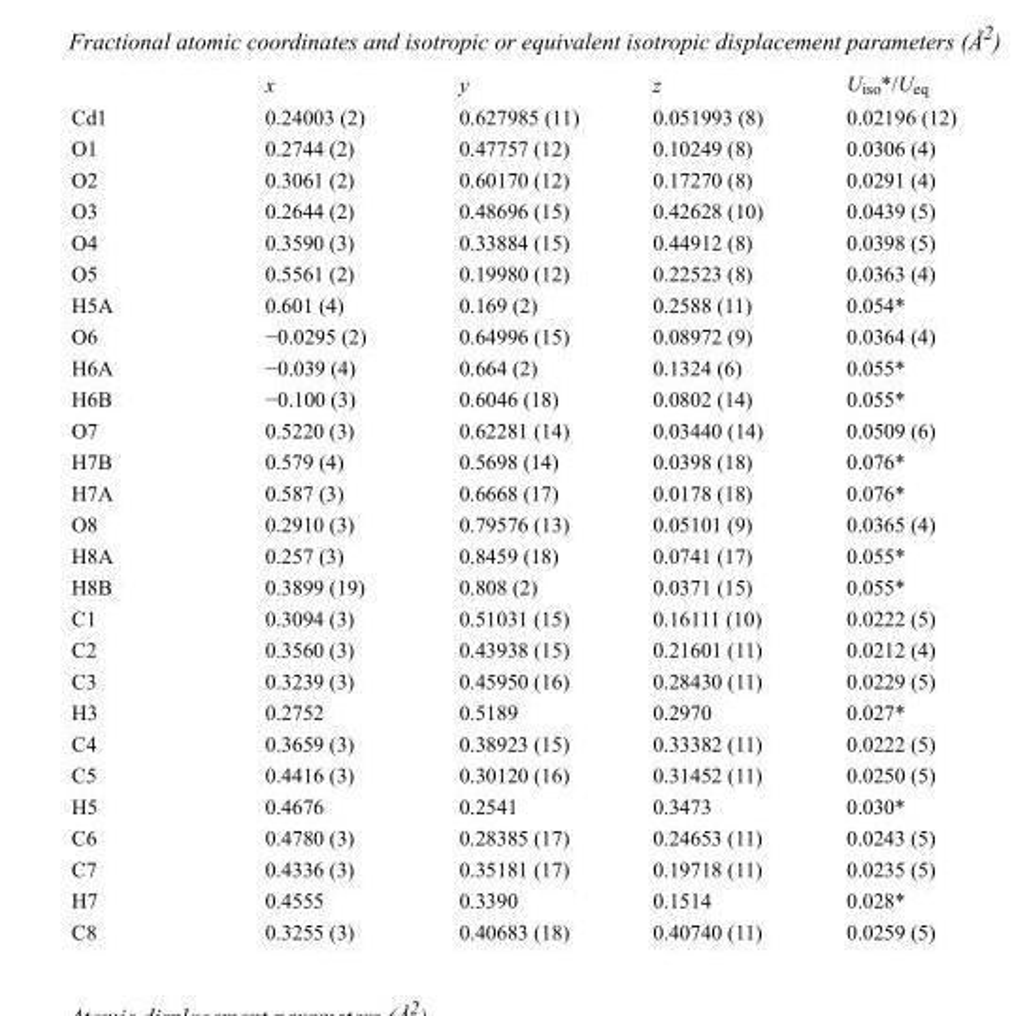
<table><thead><tr><td></td><td>x</td><td>y</td><td>z</td><td>U<sub>iso</sub>*/U<sub>eq</sub></td></tr></thead><tbody><tr><td>Cd1</td><td>0.24003 (2)</td><td>0.627985 (11)</td><td>0.051993 (8)</td><td>0.02196 (12)</td></tr><tr><td>O1</td><td>0.2744 (2)</td><td>0.47757 (12)</td><td>0.10249 (8)</td><td>0.0306 (4)</td></tr><tr><td>O2</td><td>0.3061 (2)</td><td>0.60170 (12)</td><td>0.17270 (8)</td><td>0.0291 (4)</td></tr><tr><td>O3</td><td>0.2644 (2)</td><td>0.48696 (15)</td><td>0.42628 (10)</td><td>0.0439 (5)</td></tr><tr><td>O4</td><td>0.3590 (3)</td><td>0.33884 (15)</td><td>0.44912 (8)</td><td>0.0398 (5)</td></tr><tr><td>O5</td><td>0.5561 (2)</td><td>0.19980 (12)</td><td>0.22523 (8)</td><td>0.0363 (4)</td></tr><tr><td>H5A</td><td>0.601 (4)</td><td>0.169 (2)</td><td>0.2588 (11)</td><td>0.054*</td></tr><tr><td>O6</td><td>−0.0295 (2)</td><td>0.64996 (15)</td><td>0.08972 (9)</td><td>0.0364 (4)</td></tr><tr><td>H6A</td><td>−0.039 (4)</td><td>0.664 (2)</td><td>0.1324 (6)</td><td>0.055*</td></tr><tr><td>H6B</td><td>−0.100 (3)</td><td>0.6046 (18)</td><td>0.0802 (14)</td><td>0.055*</td></tr><tr><td>O7</td><td>0.5220 (3)</td><td>0.62281 (14)</td><td>0.03440 (14)</td><td>0.0509 (6)</td></tr><tr><td>H7B</td><td>0.579 (4)</td><td>0.5698 (14)</td><td>0.0398 (18)</td><td>0.076*</td></tr><tr><td>H7A</td><td>0.587 (3)</td><td>0.6668 (17)</td><td>0.0178 (18)</td><td>0.076*</td></tr><tr><td>O8</td><td>0.2910 (3)</td><td>0.79576 (13)</td><td>0.05101 (9)</td><td>0.0365 (4)</td></tr><tr><td>H8A</td><td>0.257 (3)</td><td>0.8459 (18)</td><td>0.0741 (17)</td><td>0.055*</td></tr><tr><td>H8B</td><td>0.3899 (19)</td><td>0.808 (2)</td><td>0.0371 (15)</td><td>0.055*</td></tr><tr><td>C1</td><td>0.3094 (3)</td><td>0.51031 (15)</td><td>0.16111 (10)</td><td>0.0222 (5)</td></tr><tr><td>C2</td><td>0.3560 (3)</td><td>0.43938 (15)</td><td>0.21601 (11)</td><td>0.0212 (4)</td></tr><tr><td>C3</td><td>0.3239 (3)</td><td>0.45950 (16)</td><td>0.28430 (11)</td><td>0.0229 (5)</td></tr><tr><td>H3</td><td>0.2752</td><td>0.5189</td><td>0.2970</td><td>0.027*</td></tr><tr><td>C4</td><td>0.3659 (3)</td><td>0.38923 (15)</td><td>0.33382 (11)</td><td>0.0222 (5)</td></tr><tr><td>C5</td><td>0.4416 (3)</td><td>0.30120 (16)</td><td>0.31452 (11)</td><td>0.0250 (5)</td></tr><tr><td>H5</td><td>0.4676</td><td>0.2541</td><td>0.3473</td><td>0.030*</td></tr><tr><td>C6</td><td>0.4780 (3)</td><td>0.28385 (17)</td><td>0.24653 (11)</td><td>0.0243 (5)</td></tr><tr><td>C7</td><td>0.4336 (3)</td><td>0.35181 (17)</td><td>0.19718 (11)</td><td>0.0235 (5)</td></tr><tr><td>H7</td><td>0.4555</td><td>0.3390</td><td>0.1514</td><td>0.028*</td></tr><tr><td>C8</td><td>0.3255 (3)</td><td>0.40683 (18)</td><td>0.40740 (11)</td><td>0.0259 (5)</td></tr></tbody></table>